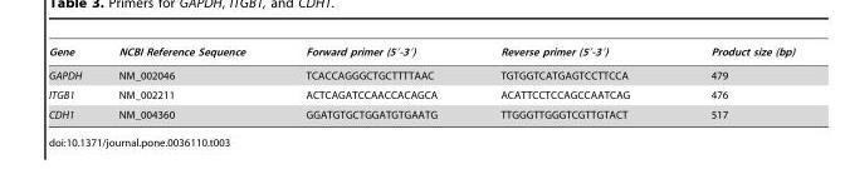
<table><thead><tr><td>Gene</td><td>NCBI Reference Sequence</td><td>Forward primer (5′-3′)</td><td>Reverse primer (5′-3′)</td><td>Product size (bp)</td></tr></thead><tbody><tr><td>GAPDH</td><td>NM_002046</td><td>TCACCAGGGCTGCTTTTAAC</td><td>TGTGGTCATGAGTCCTTCCA</td><td>479</td></tr><tr><td>ITGB1</td><td>NM_002211</td><td>ACTCAGATCCAACCACAGCA</td><td>ACATTCCTCCAGCCAATCAG</td><td>476</td></tr><tr><td>CDH1</td><td>NM_004360</td><td>GGATGTGCTGGATGTGAATG</td><td>TTGGGTTGGGTCGTTGTACT</td><td>517</td></tr></tbody></table>